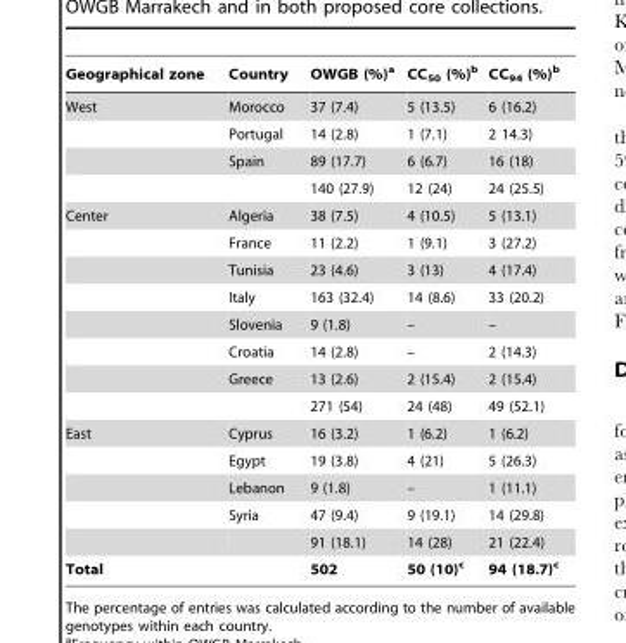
<table><thead><tr><td>Geographical zone</td><td>Country</td><td>OWGB (%)<sup>a</sup></td><td>CC<sub>50</sub> (%)<sup>b</sup></td><td>CC<sub>94</sub> (%)<sup>b</sup></td></tr></thead><tbody><tr><td rowspan="4">West</td><td>Morocco</td><td>37 (7.4)</td><td>5 (13.5)</td><td>6 (16.2)</td></tr><tr><td>Portugal</td><td>14 (2.8)</td><td>1 (7.1)</td><td>2 14.3)</td></tr><tr><td>Spain</td><td>89 (17.7)</td><td>6 (6.7)</td><td>16 (18)</td></tr><tr><td></td><td>140 (27.9)</td><td>12 (24)</td><td>24 (25.5)</td></tr><tr><td rowspan="8">Center</td><td>Algeria</td><td>38 (7.5)</td><td>4 (10.5)</td><td>5 (13.1)</td></tr><tr><td>France</td><td>11 (2.2)</td><td>1 (9.1)</td><td>3 (27.2)</td></tr><tr><td>Tunisia</td><td>23 (4.6)</td><td>3 (13)</td><td>4 (17.4)</td></tr><tr><td>Italy</td><td>163 (32.4)</td><td>14 (8.6)</td><td>33 (20.2)</td></tr><tr><td>Slovenia</td><td>9 (1.8)</td><td>–</td><td>–</td></tr><tr><td>Croatia</td><td>14 (2.8)</td><td>–</td><td>2 (14.3)</td></tr><tr><td>Greece</td><td>13 (2.6)</td><td>2 (15.4)</td><td>2 (15.4)</td></tr><tr><td></td><td>271 (54)</td><td>24 (48)</td><td>49 (52.1)</td></tr><tr><td rowspan="5">East</td><td>Cyprus</td><td>16 (3.2)</td><td>1 (6.2)</td><td>1 (6.2)</td></tr><tr><td>Egypt</td><td>19 (3.8)</td><td>4 (21)</td><td>5 (26.3)</td></tr><tr><td>Lebanon</td><td>9 (1.8)</td><td>–</td><td>1 (11.1)</td></tr><tr><td>Syria</td><td>47 (9.4)</td><td>9 (19.1)</td><td>14 (29.8)</td></tr><tr><td></td><td>91 (18.1)</td><td>14 (28)</td><td>21 (22.4)</td></tr><tr><td>Total</td><td></td><td>502</td><td>50 (10)c</td><td>94 (18.7)c</td></tr></tbody></table>